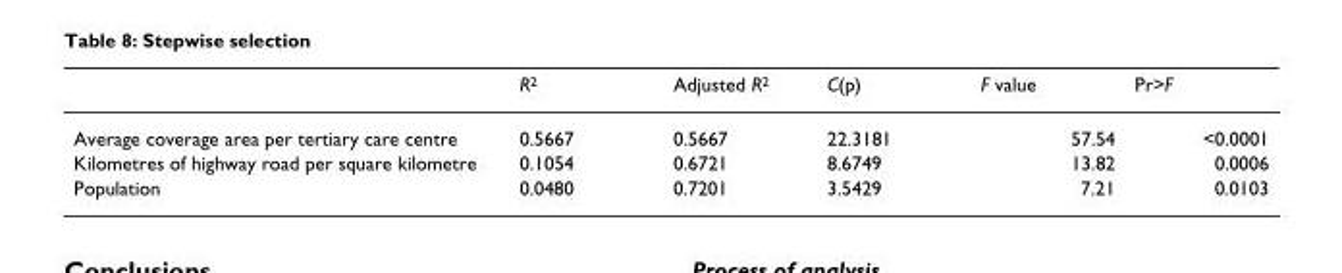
<table><thead><tr><td></td><td>R<sup>2</sup></td><td>Adjusted R<sup>2</sup></td><td>C(p)</td><td>F value</td><td>Pr&gt;F</td></tr></thead><tbody><tr><td>Average coverage area per tertiary care centre</td><td>0.5667</td><td>0.5667</td><td>22.3181</td><td>57.54</td><td>&lt;0.0001</td></tr><tr><td>Kilometres of highway road per square kilometre</td><td>0.1054</td><td>0.6721</td><td>8.6749</td><td>13.82</td><td>0.0006</td></tr><tr><td>Population</td><td>0.0480</td><td>0.7201</td><td>3.5429</td><td>7.21</td><td>0.0103</td></tr></tbody></table>